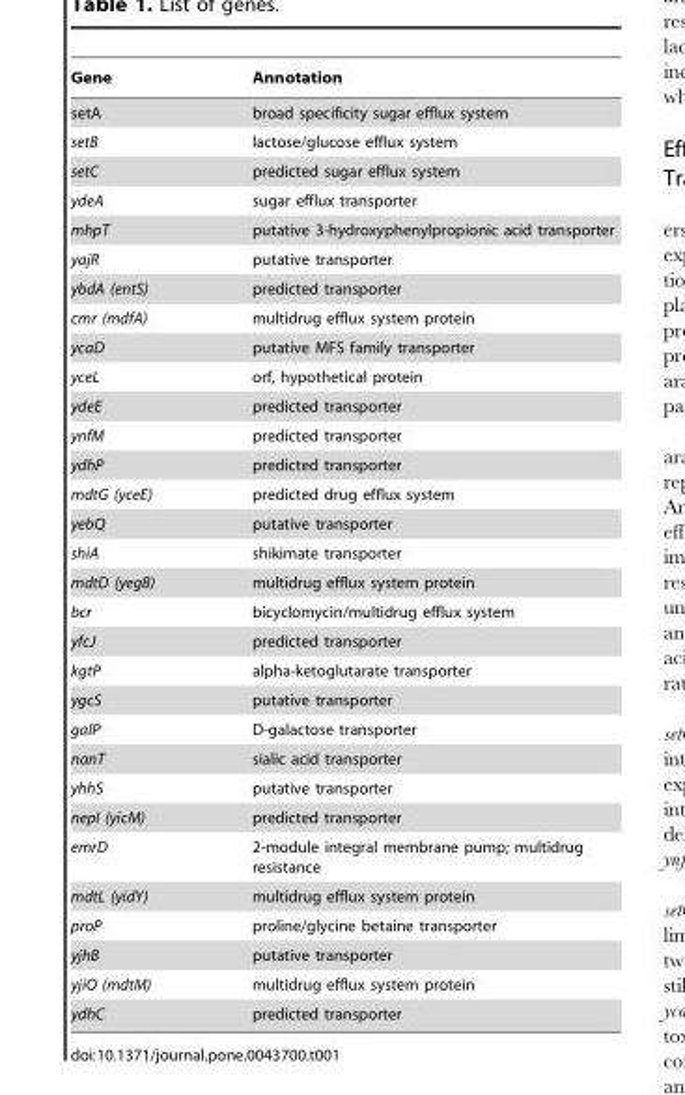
<table><thead><tr><td>Gene</td><td>Annotation</td></tr></thead><tbody><tr><td>setA</td><td>broad specificity sugar efflux system</td></tr><tr><td>setB</td><td>lactose/glucose efflux system</td></tr><tr><td>setC</td><td>predicted sugar efflux system</td></tr><tr><td>ydeA</td><td>sugar efflux transporter</td></tr><tr><td>mhpT</td><td>putative 3-hydroxyphenylpropionic acid transporter</td></tr><tr><td>yajR</td><td>putative transporter</td></tr><tr><td>ybdA (entS)</td><td>predicted transporter</td></tr><tr><td>cmr (mdfA)</td><td>multidrug efflux system protein</td></tr><tr><td>ycaD</td><td>putative MFS family transporter</td></tr><tr><td>yceL</td><td>orf, hypothetical protein</td></tr><tr><td>ydeE</td><td>predicted transporter</td></tr><tr><td>ynfM</td><td>predicted transporter</td></tr><tr><td>ydhP</td><td>predicted transporter</td></tr><tr><td>mdtG (yceE)</td><td>predicted drug efflux system</td></tr><tr><td>yebQ</td><td>putative transporter</td></tr><tr><td>shiA</td><td>shikimate transporter</td></tr><tr><td>mdtD (yegB)</td><td>multidrug efflux system protein</td></tr><tr><td>bcr</td><td>bicyclomycin/multidrug efflux system</td></tr><tr><td>yfcJ</td><td>predicted transporter</td></tr><tr><td>kgtP</td><td>alpha-ketoglutarate transporter</td></tr><tr><td>ygcS</td><td>putative transporter</td></tr><tr><td>galP</td><td>D-galactose transporter</td></tr><tr><td>nanT</td><td>sialic acid transporter</td></tr><tr><td>yhhS</td><td>putative transporter</td></tr><tr><td>nepI (yicM)</td><td>predicted transporter</td></tr><tr><td>emrD</td><td>2-module integral membrane pump; multidrug resistance</td></tr><tr><td>mdtL (yidY)</td><td>multidrug efflux system protein</td></tr><tr><td>proP</td><td>proline/glycine betaine transporter</td></tr><tr><td>yjhB</td><td>putative transporter</td></tr><tr><td>yjiO (mdtM)</td><td>multidrug efflux system protein</td></tr><tr><td>ydhC</td><td>predicted transporter</td></tr></tbody></table>